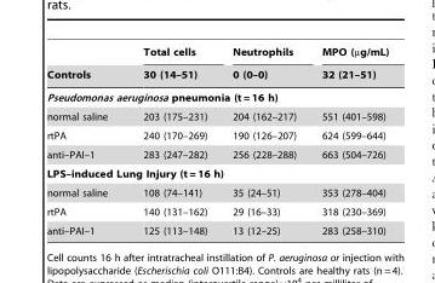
<table><thead><tr><td rowspan="2">Controls</td><td rowspan="2">Total cells 30 (14–51)</td><td rowspan="2">Neutrophils 0 (0–0)</td><td rowspan="2">MPO (µg/mL) 32 (21–51)</td></tr><tr></tr></thead><tbody><tr><td colspan="4">Pseudomonas aeruginosa pneumonia (t = 16 h)</td></tr><tr><td>normal saline</td><td>203 (175–231)</td><td>204 (162–217)</td><td>551 (401–598)</td></tr><tr><td>rtPA</td><td>240 (170–269)</td><td>190 (126–207)</td><td>624 (599–644)</td></tr><tr><td>anti–PAI–1</td><td>283 (247–282)</td><td>256 (228–288)</td><td>663 (504–726)</td></tr><tr><td colspan="4">LPS–induced Lung Injury (t = 16 h)</td></tr><tr><td>normal saline</td><td>108 (74–141)</td><td>35 (24–51)</td><td>353 (278–404)</td></tr><tr><td>rtPA</td><td>140 (131–162)</td><td>29 (16–33)</td><td>318 (230–369)</td></tr><tr><td>anti–PAI–1</td><td>125 (113–148)</td><td>13 (12–25)</td><td>283 (258–310)</td></tr></tbody></table>